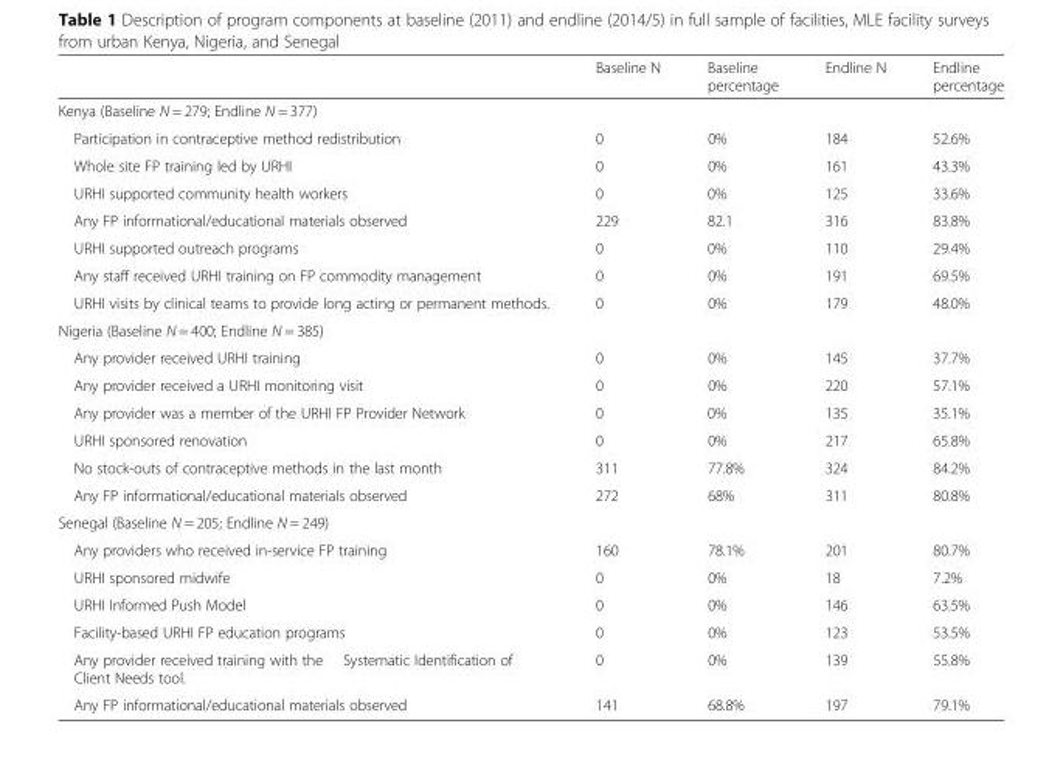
<table><thead><tr><td></td><td>Baseline N</td><td>Baseline percentage</td><td>Endline N</td><td>Endline percentage</td></tr></thead><tbody><tr><td colspan="5">Kenya (Baseline N = 279; Endline N = 377)</td></tr><tr><td>Participation in contraceptive method redistribution</td><td>0</td><td>0%</td><td>184</td><td>52.6%</td></tr><tr><td>Whole site FP training led by URHI</td><td>0</td><td>0%</td><td>161</td><td>43.3%</td></tr><tr><td>URHI supported community health workers</td><td>0</td><td>0%</td><td>125</td><td>33.6%</td></tr><tr><td>Any FP informational/educational materials observed</td><td>229</td><td>82.1</td><td>316</td><td>83.8%</td></tr><tr><td>URHI supported outreach programs</td><td>0</td><td>0%</td><td>110</td><td>29.4%</td></tr><tr><td>Any staff received URHI training on FP commodity management</td><td>0</td><td>0%</td><td>191</td><td>69.5%</td></tr><tr><td>URHI visits by clinical teams to provide long acting or permanent methods.</td><td>0</td><td>0%</td><td>179</td><td>48.0%</td></tr><tr><td colspan="5">Nigeria (Baseline N = 400; Endline N = 385)</td></tr><tr><td>Any provider received URHI training</td><td>0</td><td>0%</td><td>145</td><td>37.7%</td></tr><tr><td>Any provider received a URHI monitoring visit</td><td>0</td><td>0%</td><td>220</td><td>57.1%</td></tr><tr><td>Any provider was a member of the URHI FP Provider Network</td><td>0</td><td>0%</td><td>135</td><td>35.1%</td></tr><tr><td>URHI sponsored renovation</td><td>0</td><td>0%</td><td>217</td><td>65.8%</td></tr><tr><td>No stock-outs of contraceptive methods in the last month</td><td>311</td><td>77.8%</td><td>324</td><td>84.2%</td></tr><tr><td>Any FP informational/educational materials observed</td><td>272</td><td>68%</td><td>311</td><td>80.8%</td></tr><tr><td colspan="5">Senegal (Baseline N = 205; Endline N = 249)</td></tr><tr><td>Any providers who received in-service FP training</td><td>160</td><td>78.1%</td><td>201</td><td>80.7%</td></tr><tr><td>URHI sponsored midwife</td><td>0</td><td>0%</td><td>18</td><td>7.2%</td></tr><tr><td>URHI Informed Push Model</td><td>0</td><td>0%</td><td>146</td><td>63.5%</td></tr><tr><td>Facility-based URHI FP education programs</td><td>0</td><td>0%</td><td>123</td><td>53.5%</td></tr><tr><td>Any provider received training with the Systematic Identification of Client Needs tool.</td><td>0</td><td>0%</td><td>139</td><td>55.8%</td></tr><tr><td>Any FP informational/educational materials observed</td><td>141</td><td>68.8%</td><td>197</td><td>79.1%</td></tr></tbody></table>